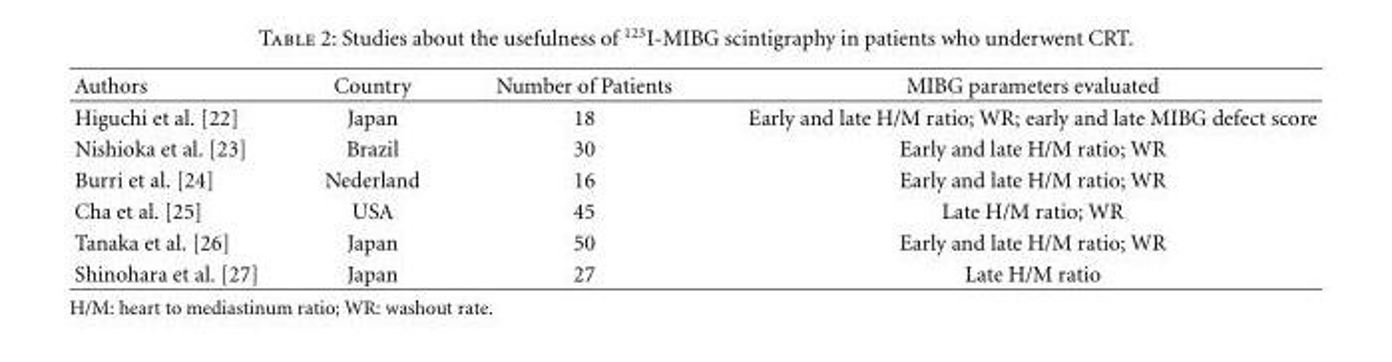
<table><thead><tr><td>Authors</td><td>Country</td><td>Number of Patients</td><td>MIBG parameters evaluated</td></tr></thead><tbody><tr><td>Higuchi et al. [22]</td><td>Japan</td><td>18</td><td>Early and late H/M ratio; WR; early and late MIBG defect score</td></tr><tr><td>Nishioka et al. [23]</td><td>Brazil</td><td>30</td><td>Early and late H/M ratio; WR</td></tr><tr><td>Burri et al. [24]</td><td>Nederland</td><td>16</td><td>Early and late H/M ratio; WR</td></tr><tr><td>Cha et al. [25]</td><td>USA</td><td>45</td><td>Late H/M ratio; WR</td></tr><tr><td>Tanaka et al. [26]</td><td>Japan</td><td>50</td><td>Early and late H/M ratio; WR</td></tr><tr><td>Shinohara et al. [27]</td><td>Japan</td><td>27</td><td>Late H/M ratio</td></tr></tbody></table>